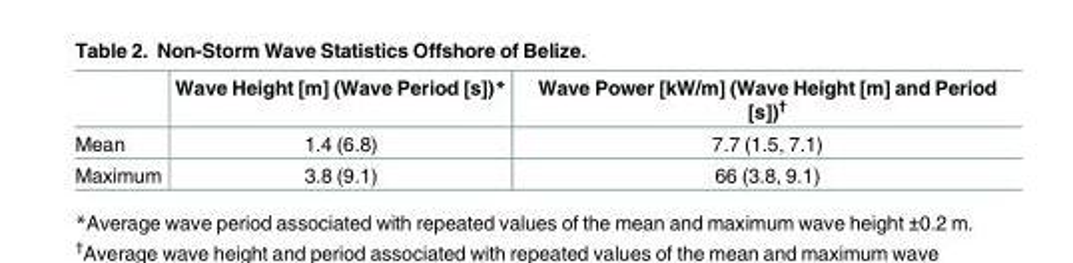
<table><thead><tr><td></td><td>Wave Height [m] (Wave Period [s])*</td><td>Wave Power [kW/m] (Wave Height [m] and Period [s])<sup>†</sup></td></tr></thead><tbody><tr><td>Mean</td><td>1.4 (6.8)</td><td>7.7 (1.5, 7.1)</td></tr><tr><td>Maximum</td><td>3.8 (9.1)</td><td>66 (3.8, 9.1)</td></tr></tbody></table>